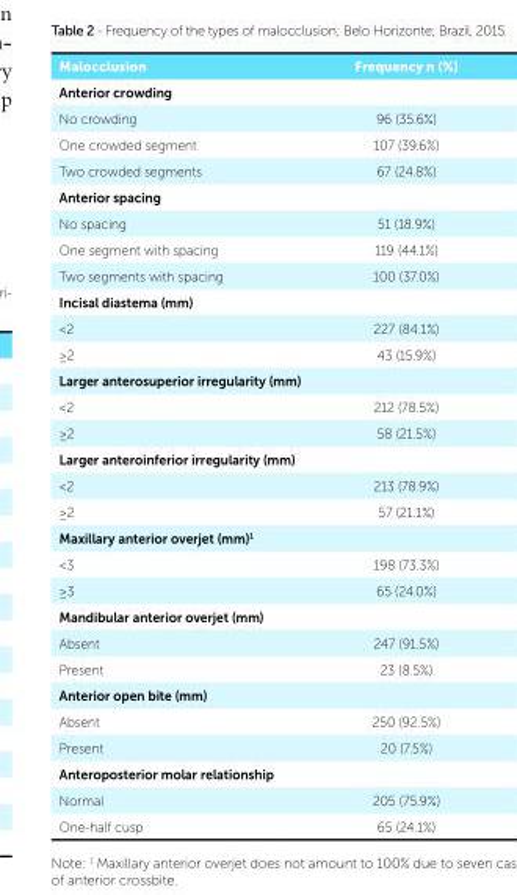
<table><tbody><tr><td>Malocclusion</td><td>Frequency n (%)</td></tr><tr><td colspan="2">Anterior crowding</td></tr><tr><td>No crowding</td><td>96 (35.6%)</td></tr><tr><td>One crowded segment</td><td>107 (39.6%)</td></tr><tr><td>Two crowded segments</td><td>67 (24.8%)</td></tr><tr><td colspan="2">Anterior spacing</td></tr><tr><td>No spacing</td><td>51 (18.9%)</td></tr><tr><td>One segment with spacing</td><td>119 (44.1%)</td></tr><tr><td>Two segments with spacing</td><td>100 (37.0%)</td></tr><tr><td colspan="2">Incisal diastema (mm)</td></tr><tr><td>&lt;2</td><td>227 (84.1%)</td></tr><tr><td>≥2</td><td>43 (15.9%)</td></tr><tr><td colspan="2">Larger anterosuperior irregularity (mm)</td></tr><tr><td>&lt;2</td><td>212 (78.5%)</td></tr><tr><td>≥2</td><td>58 (21.5%)</td></tr><tr><td colspan="2">Larger anteroinferior irregularity (mm)</td></tr><tr><td>&lt;2</td><td>213 (78.9%)</td></tr><tr><td>≥2</td><td>57 (21.1%)</td></tr><tr><td colspan="2">Maxillary anterior overjet (mm)<sup>1</sup></td></tr><tr><td>&lt;3</td><td>198 (73.3%)</td></tr><tr><td>≥3</td><td>65 (24.0%)</td></tr><tr><td colspan="2">Mandibular anterior overjet (mm)</td></tr><tr><td>Absent</td><td>247 (91.5%)</td></tr><tr><td>Present</td><td>23 (8.5%)</td></tr><tr><td colspan="2">Anterior open bite (mm)</td></tr><tr><td>Absent</td><td>250 (92.5%)</td></tr><tr><td>Present</td><td>20 (7.5%)</td></tr><tr><td colspan="2">Anteroposterior molar relationship</td></tr><tr><td>Normal</td><td>205 (75.9%)</td></tr><tr><td>One-half cusp</td><td>65 (24.1%)</td></tr></tbody></table>